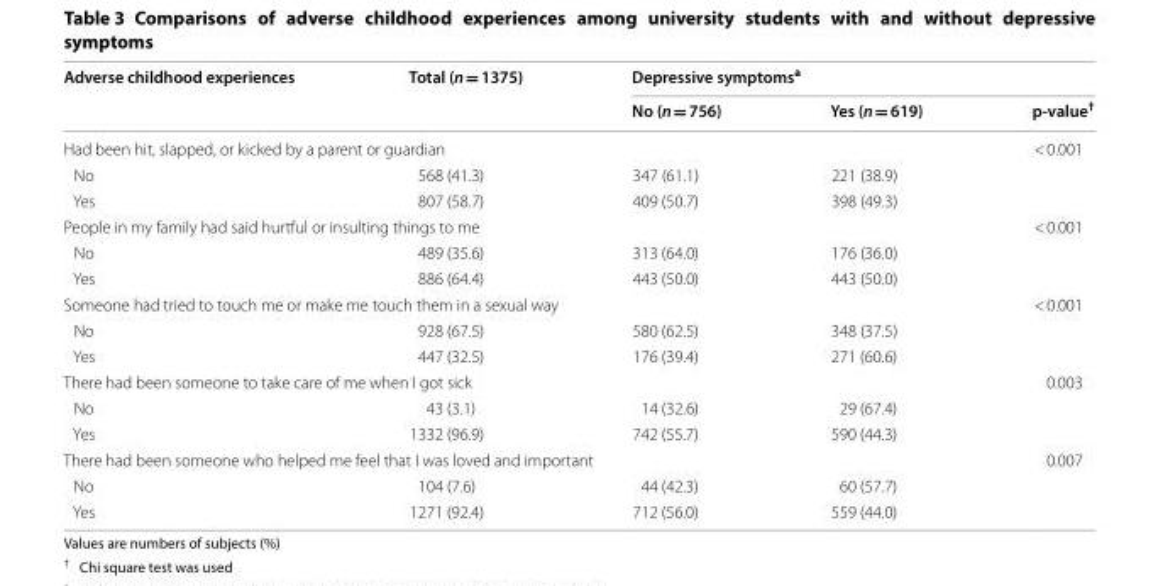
<table><thead><tr><td rowspan="2">Adverse childhood experiences</td><td rowspan="2">Total (n = 1375)</td><td colspan="3">Depressive symptoms<sup>a</sup></td></tr><tr><td>No (n = 756)</td><td>Yes (n = 619)</td><td>p‑value<sup>†</sup></td></tr></thead><tbody><tr><td colspan="4">Had been hit, slapped, or kicked by a parent or guardian</td><td>&lt; 0.001</td></tr><tr><td>No</td><td>568 (41.3)</td><td>347 (61.1)</td><td>221 (38.9)</td><td></td></tr><tr><td>Yes</td><td>807 (58.7)</td><td>409 (50.7)</td><td>398 (49.3)</td><td></td></tr><tr><td colspan="4">People in my family had said hurtful or insulting things to me</td><td>&lt; 0.001</td></tr><tr><td>No</td><td>489 (35.6)</td><td>313 (64.0)</td><td>176 (36.0)</td><td></td></tr><tr><td>Yes</td><td>886 (64.4)</td><td>443 (50.0)</td><td>443 (50.0)</td><td></td></tr><tr><td colspan="4">Someone had tried to touch me or make me touch them in a sexual way</td><td>&lt; 0.001</td></tr><tr><td>No</td><td>928 (67.5)</td><td>580 (62.5)</td><td>348 (37.5)</td><td></td></tr><tr><td>Yes</td><td>447 (32.5)</td><td>176 (39.4)</td><td>271 (60.6)</td><td></td></tr><tr><td colspan="4">There had been someone to take care of me when I got sick</td><td>0.003</td></tr><tr><td>No</td><td>43 (3.1)</td><td>14 (32.6)</td><td>29 (67.4)</td><td></td></tr><tr><td>Yes</td><td>1332 (96.9)</td><td>742 (55.7)</td><td>590 (44.3)</td><td></td></tr><tr><td colspan="4">There had been someone who helped me feel that I was loved and important</td><td>0.007</td></tr><tr><td>No</td><td>104 (7.6)</td><td>44 (42.3)</td><td>60 (57.7)</td><td></td></tr><tr><td>Yes</td><td>1271 (92.4)</td><td>712 (56.0)</td><td>559 (44.0)</td><td></td></tr></tbody></table>